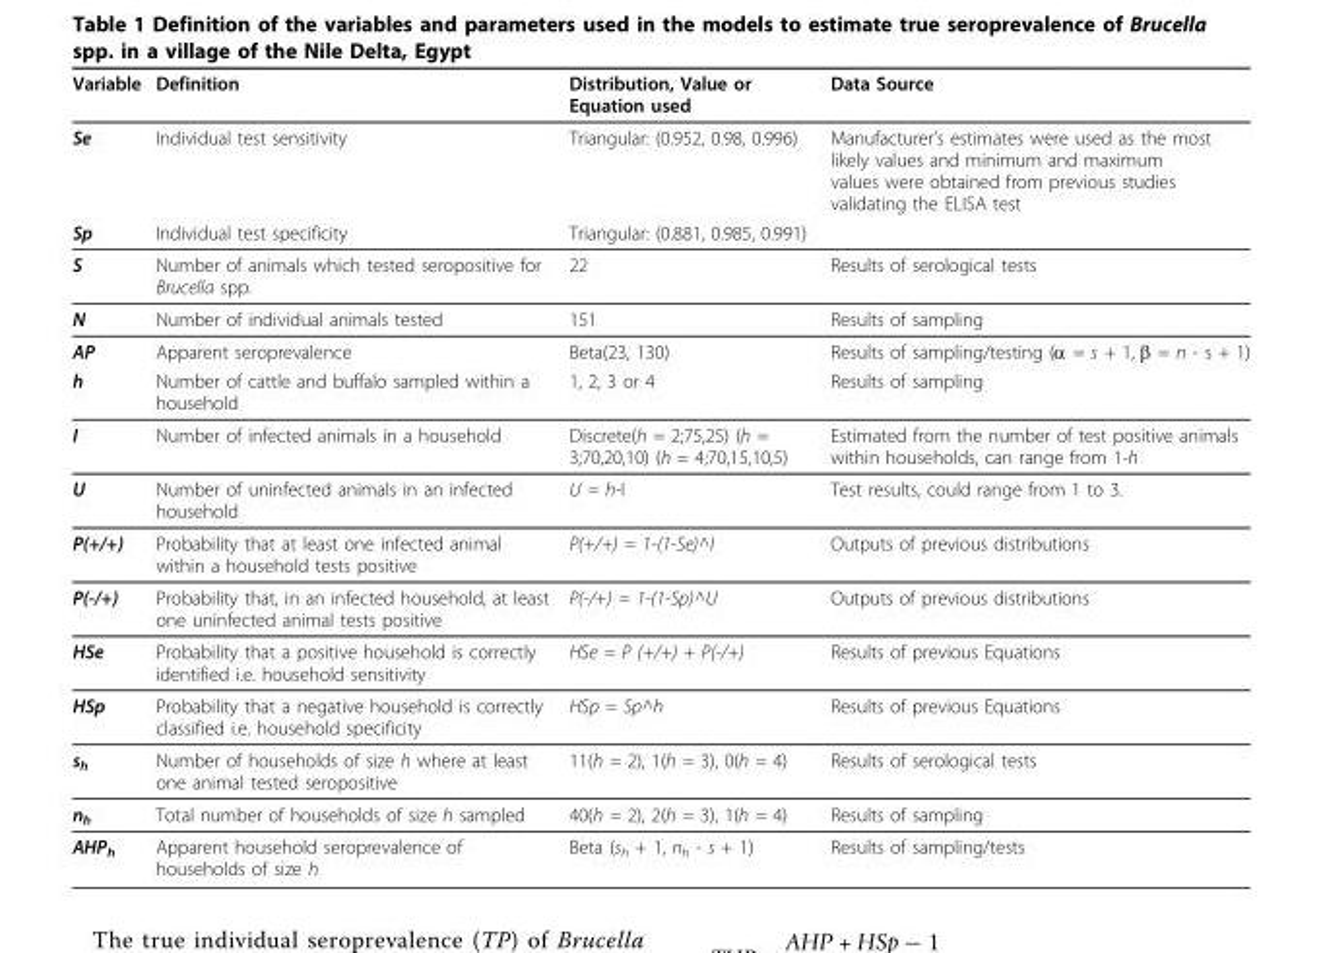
<table><thead><tr><td>Variable</td><td>Definition</td><td>Distribution, Value or Equation used</td><td>Data Source</td></tr></thead><tbody><tr><td>Se</td><td>Individual test sensitivity</td><td>Triangular: (0.952, 0.98, 0.996)</td><td>Manufacturer’s estimates were used as the most likely values and minimum and maximum values were obtained from previous studies validating the ELISA test</td></tr><tr><td>Sp</td><td>Individual test specificity</td><td>Triangular: (0.881, 0.985, 0.991)</td><td></td></tr><tr><td>S</td><td>Number of animals which tested seropositive for Brucella spp.</td><td>22</td><td>Results of serological tests</td></tr><tr><td>N</td><td>Number of individual animals tested</td><td>151</td><td>Results of sampling</td></tr><tr><td>AP</td><td>Apparent seroprevalence</td><td>Beta(23, 130)</td><td>Results of sampling/testing (α = s + 1, β = n - s + 1)</td></tr><tr><td>h</td><td>Number of cattle and buffalo sampled within a household</td><td>1, 2, 3 or 4</td><td>Results of sampling</td></tr><tr><td>I</td><td>Number of infected animals in a household</td><td>Discrete(h = 2;75,25) (h = 3;70,20,10) (h = 4;70,15,10,5)</td><td>Estimated from the number of test positive animals within households, can range from 1-h</td></tr><tr><td>U</td><td>Number of uninfected animals in an infected household</td><td>U = h-I</td><td>Test results, could range from 1 to 3.</td></tr><tr><td>P(+/+)</td><td>Probability that at least one infected animal within a household tests positive</td><td>P(+/+) = 1-(1-Se)^I</td><td>Outputs of previous distributions</td></tr><tr><td>P(-/+)</td><td>Probability that, in an infected household, at least one uninfected animal tests positive</td><td>P(-/+) = 1-(1-Sp)^U</td><td>Outputs of previous distributions</td></tr><tr><td>HSe</td><td>Probability that a positive household is correctly identified i.e. household sensitivity</td><td>HSe = P (+/+) + P(-/+)</td><td>Results of previous Equations</td></tr><tr><td>HSp</td><td>Probability that a negative household is correctly classified i.e. household specificity</td><td>HSp = Sp^h</td><td>Results of previous Equations</td></tr><tr><td>s<sub>h</sub></td><td>Number of households of size h where at least one animal tested seropositive</td><td>11(h = 2), 1(h = 3), 0(h = 4)</td><td>Results of serological tests</td></tr><tr><td>n<sub>h</sub></td><td>Total number of households of size h sampled</td><td>40(h = 2), 2(h = 3), 1(h = 4)</td><td>Results of sampling</td></tr><tr><td>AHP<sub>h</sub></td><td>Apparent household seroprevalence of households of size h</td><td>Beta (s<sub>h</sub> + 1, n<sub>h</sub> - s + 1)</td><td>Results of sampling/tests</td></tr></tbody></table>